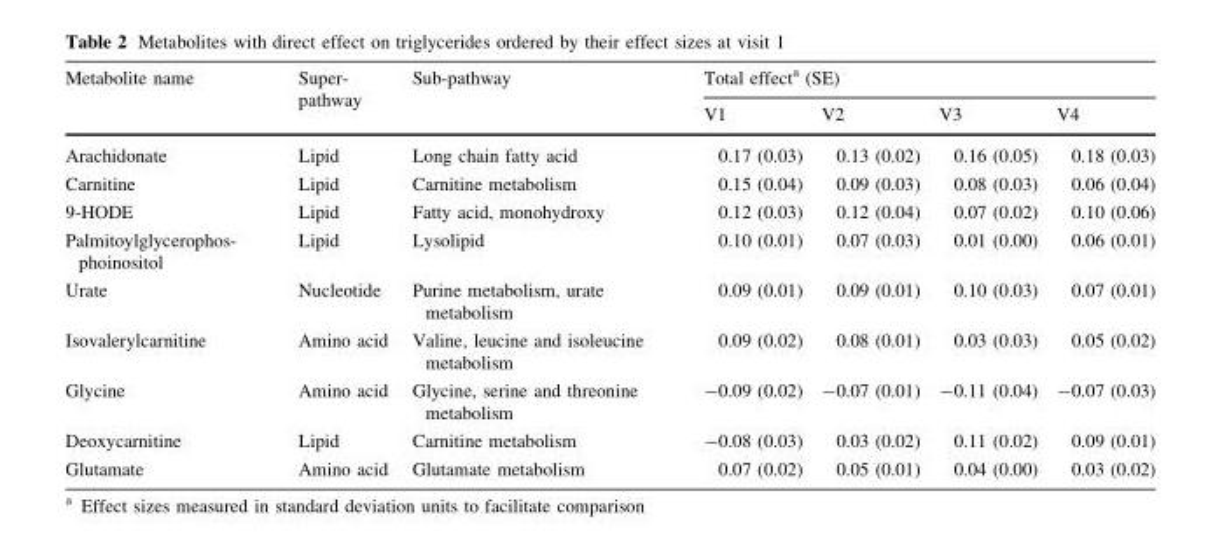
<table><thead><tr><td rowspan="2">Metabolite name</td><td rowspan="2">Super- pathway</td><td rowspan="2">Sub-pathway</td><td colspan="4">Total effect<sup>a</sup> (SE)</td></tr><tr><td>V1</td><td>V2</td><td>V3</td><td>V4</td></tr></thead><tbody><tr><td>Arachidonate</td><td>Lipid</td><td>Long chain fatty acid</td><td>0.17 (0.03)</td><td>0.13 (0.02)</td><td>0.16 (0.05)</td><td>0.18 (0.03)</td></tr><tr><td>Carnitine</td><td>Lipid</td><td>Carnitine metabolism</td><td>0.15 (0.04)</td><td>0.09 (0.03)</td><td>0.08 (0.03)</td><td>0.06 (0.04)</td></tr><tr><td>9-HODE</td><td>Lipid</td><td>Fatty acid, monohydroxy</td><td>0.12 (0.03)</td><td>0.12 (0.04)</td><td>0.07 (0.02)</td><td>0.10 (0.06)</td></tr><tr><td>Palmitoylglycerophos- phoinositol</td><td>Lipid</td><td>Lysolipid</td><td>0.10 (0.01)</td><td>0.07 (0.03)</td><td>0.01 (0.00)</td><td>0.06 (0.01)</td></tr><tr><td>Urate</td><td>Nucleotide</td><td>Purine metabolism, urate metabolism</td><td>0.09 (0.01)</td><td>0.09 (0.01)</td><td>0.10 (0.03)</td><td>0.07 (0.01)</td></tr><tr><td>Isovalerylcarnitine</td><td>Amino acid</td><td>Valine, leucine and isoleucine metabolism</td><td>0.09 (0.02)</td><td>0.08 (0.01)</td><td>0.03 (0.03)</td><td>0.05 (0.02)</td></tr><tr><td>Glycine</td><td>Amino acid</td><td>Glycine, serine and threonine metabolism</td><td>-0.09 (0.02)</td><td>-0.07 (0.01)</td><td>-0.11 (0.04)</td><td>-0.07 (0.03)</td></tr><tr><td>Deoxycarnitine</td><td>Lipid</td><td>Carnitine metabolism</td><td>-0.08 (0.03)</td><td>0.03 (0.02)</td><td>0.11 (0.02)</td><td>0.09 (0.01)</td></tr><tr><td>Glutamate</td><td>Amino acid</td><td>Glutamate metabolism</td><td>0.07 (0.02)</td><td>0.05 (0.01)</td><td>0.04 (0.00)</td><td>0.03 (0.02)</td></tr></tbody></table>